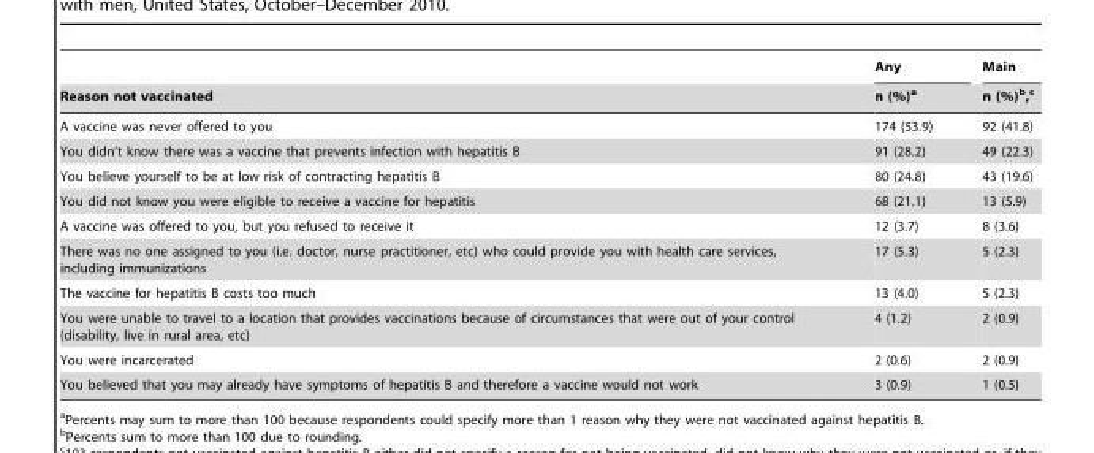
<table><thead><tr><td rowspan="2">Reason not vaccinated</td><td rowspan="2">Any n (%)<sup>a</sup></td><td rowspan="2">Main n (%)<sup>b</sup>,<sup>c</sup></td></tr><tr></tr></thead><tbody><tr><td>A vaccine was never offered to you</td><td>174 (53.9)</td><td>92 (41.8)</td></tr><tr><td>You didn’t know there was a vaccine that prevents infection with hepatitis B</td><td>91 (28.2)</td><td>49 (22.3)</td></tr><tr><td>You believe yourself to be at low risk of contracting hepatitis B</td><td>80 (24.8)</td><td>43 (19.6)</td></tr><tr><td>You did not know you were eligible to receive a vaccine for hepatitis</td><td>68 (21.1)</td><td>13 (5.9)</td></tr><tr><td>A vaccine was offered to you, but you refused to receive it</td><td>12 (3.7)</td><td>8 (3.6)</td></tr><tr><td>There was no one assigned to you (i.e. doctor, nurse practitioner, etc) who could provide you with health care services, including immunizations</td><td>17 (5.3)</td><td>5 (2.3)</td></tr><tr><td>The vaccine for hepatitis B costs too much</td><td>13 (4.0)</td><td>5 (2.3)</td></tr><tr><td>You were unable to travel to a location that provides vaccinations because of circumstances that were out of your control (disability, live in rural area, etc)</td><td>4 (1.2)</td><td>2 (0.9)</td></tr><tr><td>You were incarcerated</td><td>2 (0.6)</td><td>2 (0.9)</td></tr><tr><td>You believed that you may already have symptoms of hepatitis B and therefore a vaccine would not work</td><td>3 (0.9)</td><td>1 (0.5)</td></tr></tbody></table>